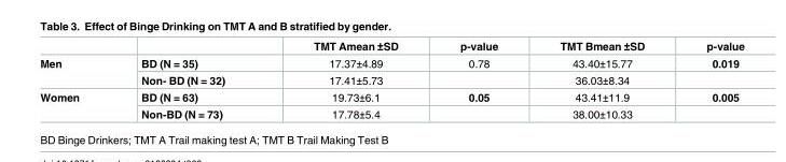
<table><thead><tr><td></td><td></td><td>TMT Amean ±SD</td><td>p-value</td><td>TMT Bmean ±SD</td><td>p-value</td></tr></thead><tbody><tr><td rowspan="2">Men</td><td>BD (N = 35)</td><td>17.37±4.89</td><td>0.78</td><td>43.40±15.77</td><td>0.019</td></tr><tr><td>Non- BD (N = 32)</td><td>17.41±5.73</td><td></td><td>36.03±8.34</td><td></td></tr><tr><td rowspan="2">Women</td><td>BD (N = 63)</td><td>19.73±6.1</td><td>0.05</td><td>43.41±11.9</td><td>0.005</td></tr><tr><td>Non-BD (N = 73)</td><td>17.78±5.4</td><td></td><td>38.00±10.33</td><td></td></tr></tbody></table>